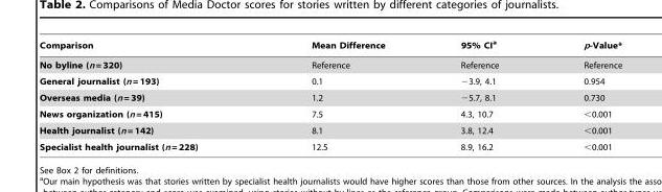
<table><thead><tr><td>Comparison</td><td>Mean Difference</td><td>95% CI<sup>a</sup></td><td>p-Value*</td></tr></thead><tbody><tr><td>No byline (n = 320)</td><td>Reference</td><td>Reference</td><td>Reference</td></tr><tr><td>General journalist (n = 193)</td><td>0.1</td><td>−3.9, 4.1</td><td>0.954</td></tr><tr><td>Overseas media (n = 39)</td><td>1.2</td><td>−5.7, 8.1</td><td>0.730</td></tr><tr><td>News organization (n = 415)</td><td>7.5</td><td>4.3, 10.7</td><td>&lt;0.001</td></tr><tr><td>Health journalist (n = 142)</td><td>8.1</td><td>3.8, 12.4</td><td>&lt;0.001</td></tr><tr><td>Specialist health journalist (n = 228)</td><td>12.5</td><td>8.9, 16.2</td><td>&lt;0.001</td></tr></tbody></table>